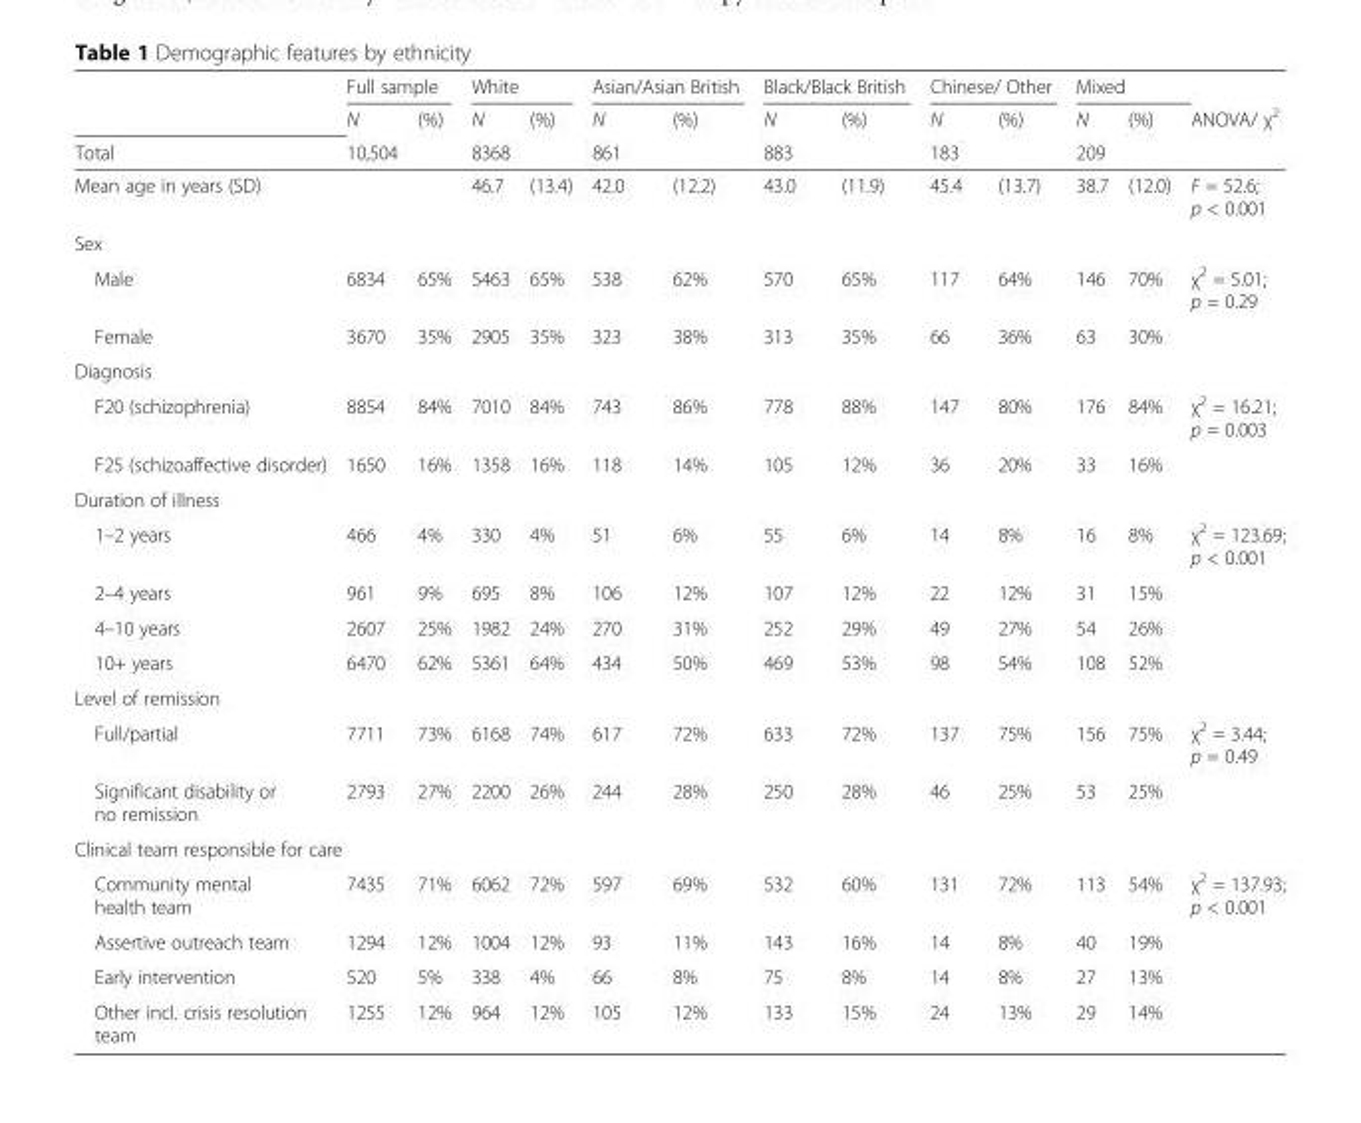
<table><thead><tr><td rowspan="3">Total</td><td colspan="2">Full sample</td><td colspan="2">White</td><td colspan="2">Asian/Asian British</td><td colspan="2">Black/Black British</td><td colspan="2">Chinese/ Other</td><td colspan="2">Mixed</td><td rowspan="3">ANOVA/ χ<sup>2</sup></td></tr><tr><td rowspan="2">N 10,504</td><td rowspan="2">(%)</td><td rowspan="2">N 8368</td><td rowspan="2">(%)</td><td rowspan="2">N 861</td><td rowspan="2">(%)</td><td rowspan="2">N 883</td><td rowspan="2">(%)</td><td rowspan="2">N 183</td><td rowspan="2">(%)</td><td rowspan="2">N 209</td><td rowspan="2">(%)</td></tr><tr></tr></thead><tbody><tr><td>Mean age in years (SD)</td><td></td><td></td><td>46.7</td><td>(13.4)</td><td>42.0</td><td>(12.2)</td><td>43.0</td><td>(11.9)</td><td>45.4</td><td>(13.7)</td><td>38.7</td><td>(12.0)</td><td>F = 52.6; p &lt; 0.001</td></tr><tr><td colspan="14">Sex</td></tr><tr><td>Male</td><td>6834</td><td>65%</td><td>5463</td><td>65%</td><td>538</td><td>62%</td><td>570</td><td>65%</td><td>117</td><td>64%</td><td>146</td><td>70%</td><td>χ<sup>2</sup> = 5.01; p = 0.29</td></tr><tr><td>Female</td><td>3670</td><td>35%</td><td>2905</td><td>35%</td><td>323</td><td>38%</td><td>313</td><td>35%</td><td>66</td><td>36%</td><td>63</td><td>30%</td><td></td></tr><tr><td colspan="14">Diagnosis</td></tr><tr><td>F20 (schizophrenia)</td><td>8854</td><td>84%</td><td>7010</td><td>84%</td><td>743</td><td>86%</td><td>778</td><td>88%</td><td>147</td><td>80%</td><td>176</td><td>84%</td><td>χ<sup>2</sup> = 16.21; p = 0.003</td></tr><tr><td>F25 (schizoaffective disorder)</td><td>1650</td><td>16%</td><td>1358</td><td>16%</td><td>118</td><td>14%</td><td>105</td><td>12%</td><td>36</td><td>20%</td><td>33</td><td>16%</td><td></td></tr><tr><td colspan="14">Duration of illness</td></tr><tr><td>1–2 years</td><td>466</td><td>4%</td><td>330</td><td>4%</td><td>51</td><td>6%</td><td>55</td><td>6%</td><td>14</td><td>8%</td><td>16</td><td>8%</td><td>χ<sup>2</sup> = 123.69; p &lt; 0.001</td></tr><tr><td>2–4 years</td><td>961</td><td>9%</td><td>695</td><td>8%</td><td>106</td><td>12%</td><td>107</td><td>12%</td><td>22</td><td>12%</td><td>31</td><td>15%</td><td rowspan="3"></td></tr><tr><td>4–10 years</td><td>2607</td><td>25%</td><td>1982</td><td>24%</td><td>270</td><td>31%</td><td>252</td><td>29%</td><td>49</td><td>27%</td><td>54</td><td>26%</td></tr><tr><td>10+ years</td><td>6470</td><td>62%</td><td>5361</td><td>64%</td><td>434</td><td>50%</td><td>469</td><td>53%</td><td>98</td><td>54%</td><td>108</td><td>52%</td></tr><tr><td colspan="14">Level of remission</td></tr><tr><td>Full/partial</td><td>7711</td><td>73%</td><td>6168</td><td>74%</td><td>617</td><td>72%</td><td>633</td><td>72%</td><td>137</td><td>75%</td><td>156</td><td>75%</td><td>χ<sup>2</sup> = 3.44; p = 0.49</td></tr><tr><td>Significant disability or no remission</td><td>2793</td><td>27%</td><td>2200</td><td>26%</td><td>244</td><td>28%</td><td>250</td><td>28%</td><td>46</td><td>25%</td><td>53</td><td>25%</td><td></td></tr><tr><td colspan="14">Clinical team responsible for care</td></tr><tr><td>Community mental health team</td><td>7435</td><td>71%</td><td>6062</td><td>72%</td><td>597</td><td>69%</td><td>532</td><td>60%</td><td>131</td><td>72%</td><td>113</td><td>54%</td><td>χ<sup>2</sup> = 137.93; p &lt; 0.001</td></tr><tr><td>Assertive outreach team</td><td>1294</td><td>12%</td><td>1004</td><td>12%</td><td>93</td><td>11%</td><td>143</td><td>16%</td><td>14</td><td>8%</td><td>40</td><td>19%</td><td></td></tr><tr><td>Early intervention</td><td>520</td><td>5%</td><td>338</td><td>4%</td><td>66</td><td>8%</td><td>75</td><td>8%</td><td>14</td><td>8%</td><td>27</td><td>13%</td><td></td></tr><tr><td>Other incl. crisis resolution team</td><td>1255</td><td>12%</td><td>964</td><td>12%</td><td>105</td><td>12%</td><td>133</td><td>15%</td><td>24</td><td>13%</td><td>29</td><td>14%</td><td></td></tr></tbody></table>